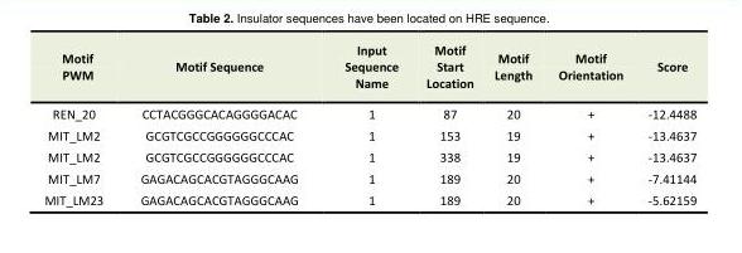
<table><tbody><tr><td>Motif PWM</td><td>Motif Sequence</td><td>Input Sequence Name</td><td>Motif Start Location</td><td>Motif Length</td><td>Motif Orientation</td><td>Score</td></tr><tr><td>REN_20</td><td>CCTACGGGCACAGGGGACAC</td><td>1</td><td>87</td><td>20</td><td>+</td><td>-12.4488</td></tr><tr><td>MIT_LM2</td><td>GCGTCGCCGGGGGGCCCAC</td><td>1</td><td>153</td><td>19</td><td>+</td><td>-13.4637</td></tr><tr><td>MIT_LM2</td><td>GCGTCGCCGGGGGGCCCAC</td><td>1</td><td>338</td><td>19</td><td>+</td><td>-13.4637</td></tr><tr><td>MIT_LM7</td><td>GAGACAGCACGTAGGGCAAG</td><td>1</td><td>189</td><td>20</td><td>+</td><td>-7.41144</td></tr><tr><td>MIT_LM23</td><td>GAGACAGCACGTAGGGCAAG</td><td>1</td><td>189</td><td>20</td><td>+</td><td>-5.62159</td></tr></tbody></table>